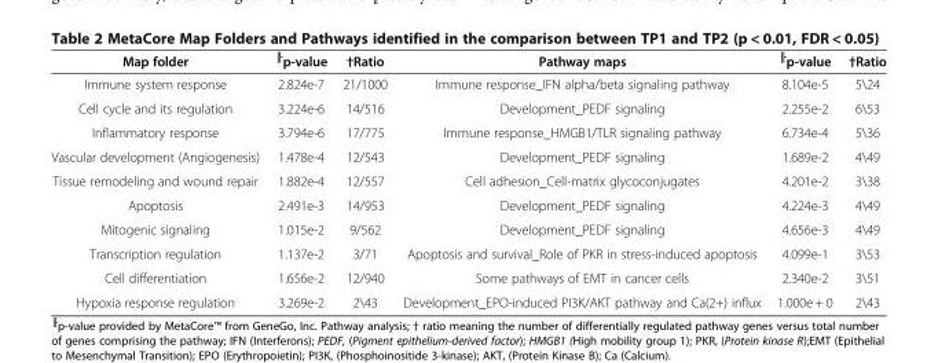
<table><thead><tr><td>Map folder</td><td><sup>╟</sup>p-value</td><td>†Ratio</td><td>Pathway maps</td><td><sup>╟</sup>p-value</td><td>†Ratio</td></tr></thead><tbody><tr><td>Immune system response</td><td>2.824e-7</td><td>21/1000</td><td>Immune response_IFN alpha/beta signaling pathway</td><td>8.104e-5</td><td>5\24</td></tr><tr><td>Cell cycle and its regulation</td><td>3.224e-6</td><td>14/516</td><td>Development_PEDF signaling</td><td>2.255e-2</td><td>6\53</td></tr><tr><td>Inflammatory response</td><td>3.794e-6</td><td>17/775</td><td>Immune response_HMGB1/TLR signaling pathway</td><td>6.734e-4</td><td>5\36</td></tr><tr><td>Vascular development (Angiogenesis)</td><td>1.478e-4</td><td>12/543</td><td>Development_PEDF signaling</td><td>1.689e-2</td><td>4\49</td></tr><tr><td>Tissue remodeling and wound repair</td><td>1.882e-4</td><td>12/557</td><td>Cell adhesion_Cell-matrix glycoconjugates</td><td>4.201e-2</td><td>3\38</td></tr><tr><td>Apoptosis</td><td>2.491e-3</td><td>14/953</td><td>Development_PEDF signaling</td><td>4.224e-3</td><td>4\49</td></tr><tr><td>Mitogenic signaling</td><td>1.015e-2</td><td>9/562</td><td>Development_PEDF signaling</td><td>4.656e-3</td><td>4\49</td></tr><tr><td>Transcription regulation</td><td>1.137e-2</td><td>3/71</td><td>Apoptosis and survival_Role of PKR in stress-induced apoptosis</td><td>4.099e-1</td><td>3\53</td></tr><tr><td>Cell differentiation</td><td>1.656e-2</td><td>12/940</td><td>Some pathways of EMT in cancer cells</td><td>2.340e-2</td><td>3\51</td></tr><tr><td>Hypoxia response regulation</td><td>3.269e-2</td><td>2\43</td><td>Development_EPO-induced PI3K/AKT pathway and Ca(2+) influx</td><td>1.000e + 0</td><td>2\43</td></tr></tbody></table>